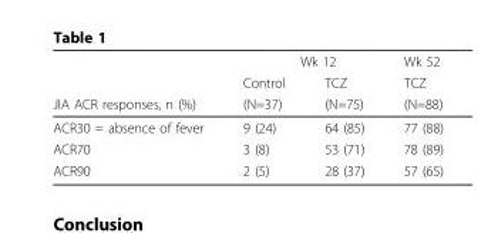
<table><thead><tr><td rowspan="3">JIA ACR responses, n (%)</td><td colspan="2">Wk 12</td><td rowspan="3">Wk 52 TCZ (N=88)</td></tr><tr><td rowspan="2">Control (N=37)</td><td rowspan="2">TCZ (N=75)</td></tr><tr></tr></thead><tbody><tr><td>ACR30 = absence of fever</td><td>9 (24)</td><td>64 (85)</td><td>77 (88)</td></tr><tr><td>ACR70</td><td>3 (8)</td><td>53 (71)</td><td>78 (89)</td></tr><tr><td>ACR90</td><td>2 (5)</td><td>28 (37)</td><td>57 (65)</td></tr></tbody></table>